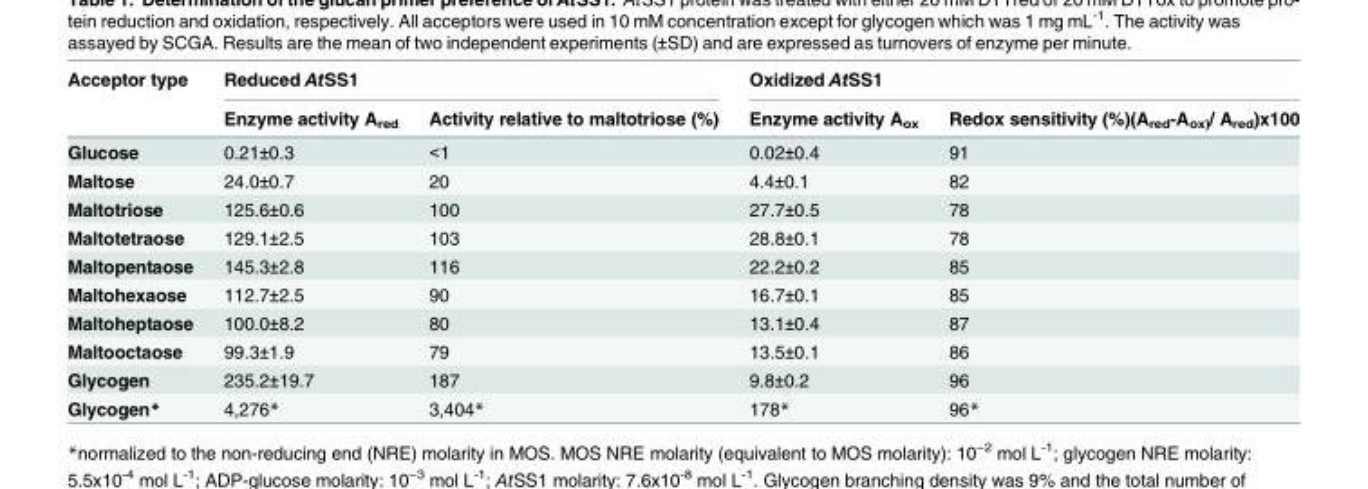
<table><thead><tr><td rowspan="2">Acceptor type</td><td colspan="2">Reduced AtSS1</td><td colspan="2">Oxidized AtSS1</td></tr><tr><td>Enzyme activity A<sub>red</sub></td><td>Activity relative to maltotriose (%)</td><td>Enzyme activity A<sub>ox</sub></td><td>Redox sensitivity (%)(A<sub>red</sub>-A<sub>ox)</sub>/ A<sub>red</sub>)x100</td></tr></thead><tbody><tr><td>Glucose</td><td>0.21±0.3</td><td>&lt;1</td><td>0.02±0.4</td><td>91</td></tr><tr><td>Maltose</td><td>24.0±0.7</td><td>20</td><td>4.4±0.1</td><td>82</td></tr><tr><td>Maltotriose</td><td>125.6±0.6</td><td>100</td><td>27.7±0.5</td><td>78</td></tr><tr><td>Maltotetraose</td><td>129.1±2.5</td><td>103</td><td>28.8±0.1</td><td>78</td></tr><tr><td>Maltopentaose</td><td>145.3±2.8</td><td>116</td><td>22.2±0.2</td><td>85</td></tr><tr><td>Maltohexaose</td><td>112.7±2.5</td><td>90</td><td>16.7±0.1</td><td>85</td></tr><tr><td>Maltoheptaose</td><td>100.0±8.2</td><td>80</td><td>13.1±0.4</td><td>87</td></tr><tr><td>Maltooctaose</td><td>99.3±1.9</td><td>79</td><td>13.5±0.1</td><td>86</td></tr><tr><td>Glycogen</td><td>235.2±19.7</td><td>187</td><td>9.8±0.2</td><td>96</td></tr><tr><td>Glycogen*</td><td>4,276*</td><td>3,404*</td><td>178*</td><td>96*</td></tr></tbody></table>